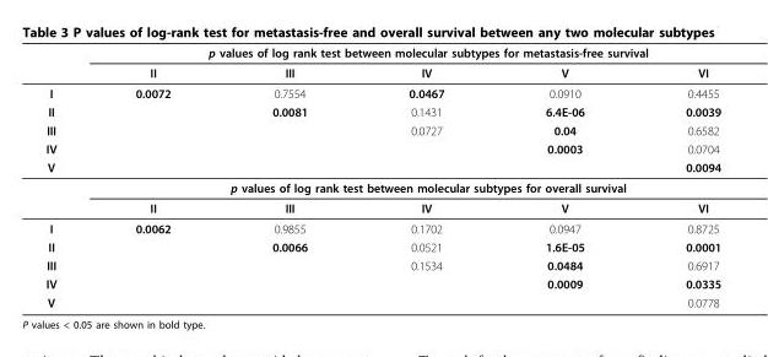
<table><thead><tr><td rowspan="2"></td><td colspan="5">p values of log rank test between molecular subtypes for metastasis-free survival</td></tr><tr><td>II</td><td>III</td><td>IV</td><td>V</td><td>VI</td></tr></thead><tbody><tr><td>I</td><td>0.0072</td><td>0.7554</td><td>0.0467</td><td>0.0910</td><td>0.4455</td></tr><tr><td>II</td><td></td><td>0.0081</td><td>0.1431</td><td>6.4E-06</td><td>0.0039</td></tr><tr><td>III</td><td></td><td></td><td>0.0727</td><td>0.04</td><td>0.6582</td></tr><tr><td>IV</td><td></td><td></td><td></td><td>0.0003</td><td>0.0704</td></tr><tr><td rowspan="3">V</td><td></td><td></td><td></td><td></td><td>0.0094</td></tr><tr><td colspan="5">p values of log rank test between molecular subtypes for overall survival</td></tr><tr><td>II</td><td>III</td><td>IV</td><td>V</td><td>VI</td></tr><tr><td>I</td><td>0.0062</td><td>0.9855</td><td>0.1702</td><td>0.0947</td><td>0.8725</td></tr><tr><td>II</td><td></td><td>0.0066</td><td>0.0521</td><td>1.6E-05</td><td>0.0001</td></tr><tr><td>III</td><td></td><td></td><td>0.1534</td><td>0.0484</td><td>0.6917</td></tr><tr><td>IV</td><td></td><td></td><td></td><td>0.0009</td><td>0.0335</td></tr><tr><td>V</td><td></td><td></td><td></td><td></td><td>0.0778</td></tr></tbody></table>